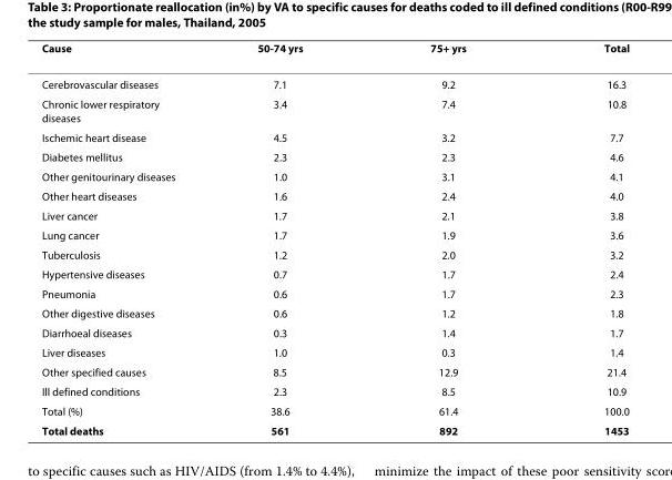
<table><thead><tr><td>Cause</td><td>50-74 yrs</td><td>75+ yrs</td><td>Total</td></tr></thead><tbody><tr><td>Cerebrovascular diseases</td><td>7.1</td><td>9.2</td><td>16.3</td></tr><tr><td>Chronic lower respiratory diseases</td><td>3.4</td><td>7.4</td><td>10.8</td></tr><tr><td>Ischemic heart disease</td><td>4.5</td><td>3.2</td><td>7.7</td></tr><tr><td>Diabetes mellitus</td><td>2.3</td><td>2.3</td><td>4.6</td></tr><tr><td>Other genitourinary diseases</td><td>1.0</td><td>3.1</td><td>4.1</td></tr><tr><td>Other heart diseases</td><td>1.6</td><td>2.4</td><td>4.0</td></tr><tr><td>Liver cancer</td><td>1.7</td><td>2.1</td><td>3.8</td></tr><tr><td>Lung cancer</td><td>1.7</td><td>1.9</td><td>3.6</td></tr><tr><td>Tuberculosis</td><td>1.2</td><td>2.0</td><td>3.2</td></tr><tr><td>Hypertensive diseases</td><td>0.7</td><td>1.7</td><td>2.4</td></tr><tr><td>Pneumonia</td><td>0.6</td><td>1.7</td><td>2.3</td></tr><tr><td>Other digestive diseases</td><td>0.6</td><td>1.2</td><td>1.8</td></tr><tr><td>Diarrhoeal diseases</td><td>0.3</td><td>1.4</td><td>1.7</td></tr><tr><td>Liver diseases</td><td>1.0</td><td>0.3</td><td>1.4</td></tr><tr><td>Other specified causes</td><td>8.5</td><td>12.9</td><td>21.4</td></tr><tr><td>Ill defined conditions</td><td>2.3</td><td>8.5</td><td>10.9</td></tr><tr><td>Total (%)</td><td>38.6</td><td>61.4</td><td>100.0</td></tr><tr><td>Total deaths</td><td>561</td><td>892</td><td>1453</td></tr></tbody></table>